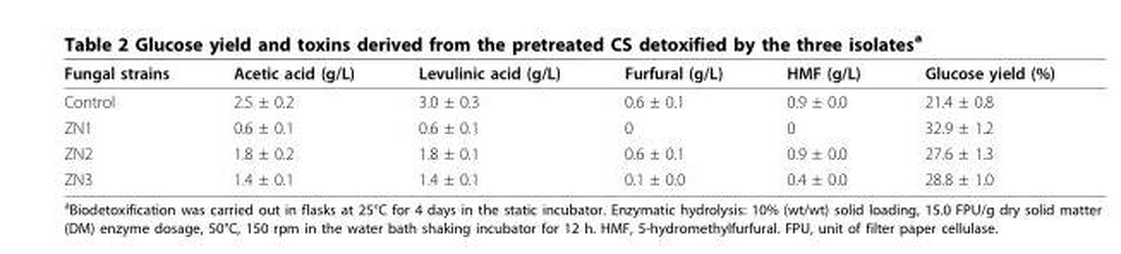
<table><thead><tr><td>Fungal strains</td><td>Acetic acid (g/L)</td><td>Levulinic acid (g/L)</td><td>Furfural (g/L)</td><td>HMF (g/L)</td><td>Glucose yield (%)</td></tr></thead><tbody><tr><td>Control</td><td>2.5 ± 0.2</td><td>3.0 ± 0.3</td><td>0.6 ± 0.1</td><td>0.9 ± 0.0</td><td>21.4 ± 0.8</td></tr><tr><td>ZN1</td><td>0.6 ± 0.1</td><td>0.6 ± 0.1</td><td>0</td><td>0</td><td>32.9 ± 1.2</td></tr><tr><td>ZN2</td><td>1.8 ± 0.2</td><td>1.8 ± 0.1</td><td>0.6 ± 0.1</td><td>0.9 ± 0.0</td><td>27.6 ± 1.3</td></tr><tr><td>ZN3</td><td>1.4 ± 0.1</td><td>1.4 ± 0.1</td><td>0.1 ± 0.0</td><td>0.4 ± 0.0</td><td>28.8 ± 1.0</td></tr></tbody></table>